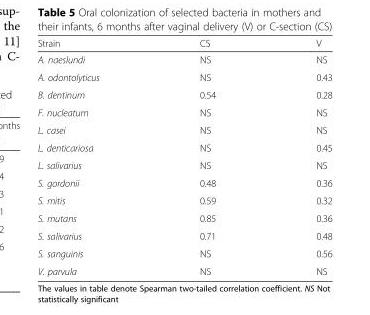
<table><thead><tr><td>Strain</td><td>CS</td><td>V</td></tr></thead><tbody><tr><td>A. naeslundi</td><td>NS</td><td>NS</td></tr><tr><td>A. odontolyticus</td><td>NS</td><td>0.43</td></tr><tr><td>B. dentinum</td><td>0.54</td><td>0.28</td></tr><tr><td>F. nucleatum</td><td>NS</td><td>NS</td></tr><tr><td>L. casei</td><td>NS</td><td>NS</td></tr><tr><td>L. denticariosa</td><td>NS</td><td>0.45</td></tr><tr><td>L. salivarius</td><td>NS</td><td>NS</td></tr><tr><td>S. gordonii</td><td>0.48</td><td>0.36</td></tr><tr><td>S. mitis</td><td>0.59</td><td>0.32</td></tr><tr><td>S. mutans</td><td>0.85</td><td>0.36</td></tr><tr><td>S. salivarius</td><td>0.71</td><td>0.48</td></tr><tr><td>S. sanguinis</td><td>NS</td><td>0.56</td></tr><tr><td>V. parvula</td><td>NS</td><td>NS</td></tr></tbody></table>